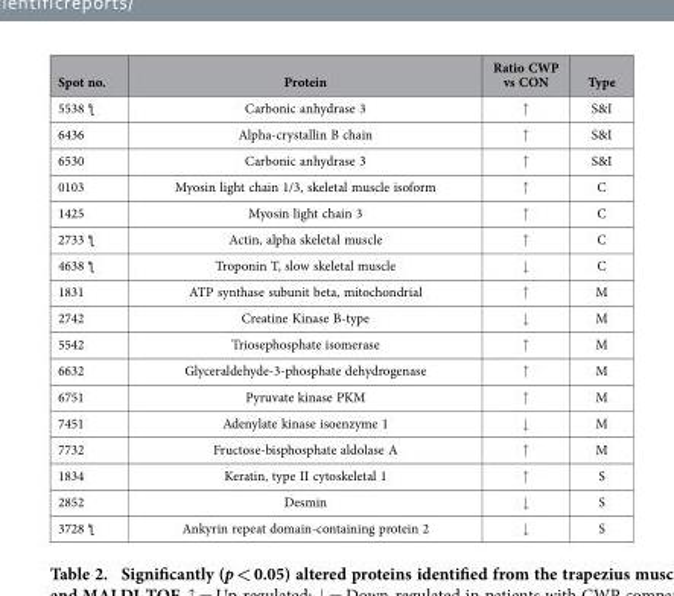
<table><thead><tr><td>Spot no.</td><td>Protein</td><td>Ratio CWP vs CON</td><td>Type</td></tr></thead><tbody><tr><td>5538 ƪ</td><td>Carbonic anhydrase 3</td><td>↑</td><td>S&amp;I</td></tr><tr><td>6436</td><td>Alpha-crystallin B chain</td><td>↑</td><td>S&amp;I</td></tr><tr><td>6530</td><td>Carbonic anhydrase 3</td><td>↑</td><td>S&amp;I</td></tr><tr><td>0103</td><td>Myosin light chain 1/3, skeletal muscle isoform</td><td>↑</td><td>C</td></tr><tr><td>1425</td><td>Myosin light chain 3</td><td>↑</td><td>C</td></tr><tr><td>2733 ƪ</td><td>Actin, alpha skeletal muscle</td><td>↑</td><td>C</td></tr><tr><td>4638 ƪ</td><td>Troponin T, slow skeletal muscle</td><td>↓</td><td>C</td></tr><tr><td>1831</td><td>ATP synthase subunit beta, mitochondrial</td><td>↑</td><td>M</td></tr><tr><td>2742</td><td>Creatine Kinase B-type</td><td>↓</td><td>M</td></tr><tr><td>5542</td><td>Triosephosphate isomerase</td><td>↑</td><td>M</td></tr><tr><td>6632</td><td>Glyceraldehyde-3-phosphate dehydrogenase</td><td>↑</td><td>M</td></tr><tr><td>6751</td><td>Pyruvate kinase PKM</td><td>↑</td><td>M</td></tr><tr><td>7451</td><td>Adenylate kinase isoenzyme 1</td><td>↓</td><td>M</td></tr><tr><td>7732</td><td>Fructose-bisphosphate aldolase A</td><td>↑</td><td>M</td></tr><tr><td>1834</td><td>Keratin, type II cytoskeletal 1</td><td>↑</td><td>S</td></tr><tr><td>2852</td><td>Desmin</td><td>↓</td><td>S</td></tr><tr><td>3728 ƪ</td><td>Ankyrin repeat domain-containing protein 2</td><td>↓</td><td>S</td></tr></tbody></table>